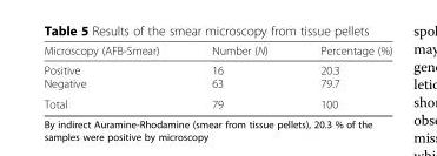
<table><thead><tr><td>Microscopy (AFB-Smear)</td><td>Number (N)</td><td>Percentage (%)</td></tr></thead><tbody><tr><td>Positive Negative</td><td>16 63</td><td>20.3 79.7</td></tr><tr><td>Total</td><td>79</td><td>100</td></tr></tbody></table>